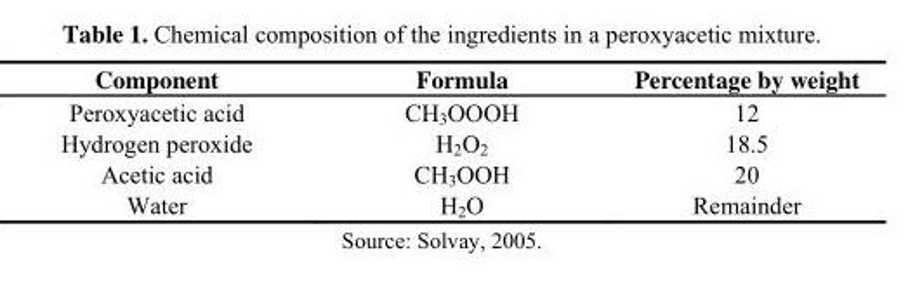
<table><thead><tr><td>Component</td><td>Formula</td><td>Percentage by weight</td></tr></thead><tbody><tr><td>Peroxyacetic acid</td><td>CH<sub>3</sub>OOOH</td><td>12</td></tr><tr><td>Hydrogen peroxide</td><td>H<sub>2</sub>O<sub>2</sub></td><td>18.5</td></tr><tr><td>Acetic acid</td><td>CH<sub>3</sub>OOH</td><td>20</td></tr><tr><td>Water</td><td>H<sub>2</sub>O</td><td>Remainder</td></tr></tbody></table>